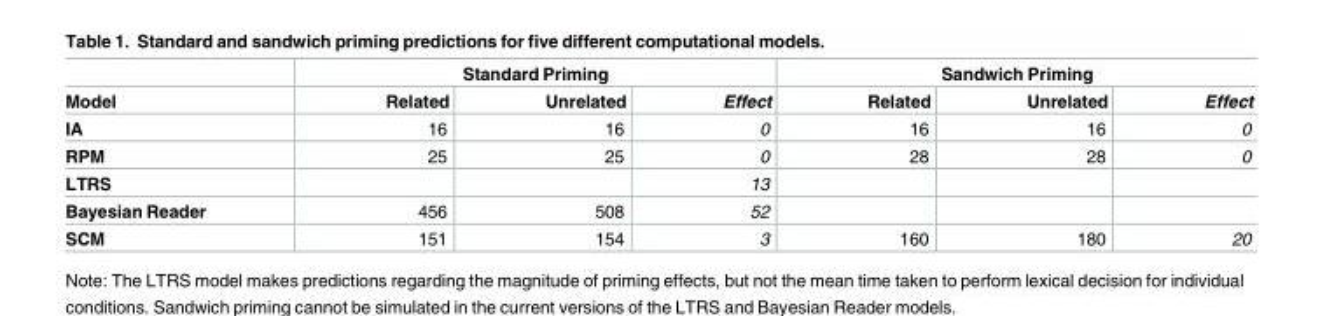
<table><thead><tr><td rowspan="2">Model</td><td colspan="3">Standard Priming</td><td colspan="3">Sandwich Priming</td></tr><tr><td>Related</td><td>Unrelated</td><td>Effect</td><td>Related</td><td>Unrelated</td><td>Effect</td></tr></thead><tbody><tr><td>IA</td><td>16</td><td>16</td><td>0</td><td>16</td><td>16</td><td>0</td></tr><tr><td>RPM</td><td>25</td><td>25</td><td>0</td><td>28</td><td>28</td><td>0</td></tr><tr><td>LTRS</td><td></td><td></td><td>13</td><td></td><td></td><td></td></tr><tr><td>Bayesian Reader</td><td>456</td><td>508</td><td>52</td><td></td><td></td><td></td></tr><tr><td>SCM</td><td>151</td><td>154</td><td>3</td><td>160</td><td>180</td><td>20</td></tr></tbody></table>